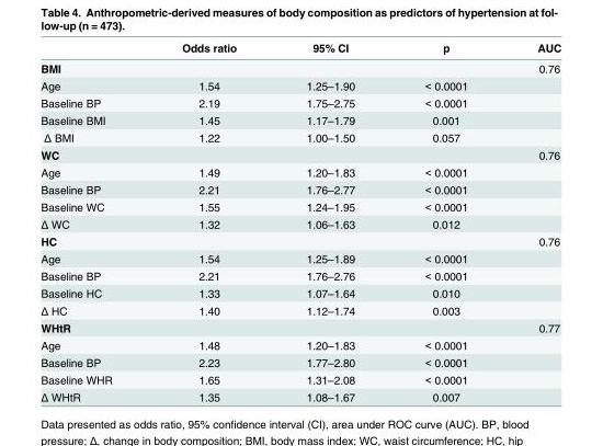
<table><thead><tr><td></td><td>Odds ratio</td><td>95% CI</td><td>p</td><td>AUC</td></tr></thead><tbody><tr><td>BMI</td><td></td><td></td><td></td><td>0.76</td></tr><tr><td>Age</td><td>1.54</td><td>1.25–1.90</td><td>&lt; 0.0001</td><td></td></tr><tr><td>Baseline BP</td><td>2.19</td><td>1.75–2.75</td><td>&lt; 0.0001</td><td></td></tr><tr><td>Baseline BMI</td><td>1.45</td><td>1.17–1.79</td><td>0.001</td><td></td></tr><tr><td>Δ BMI</td><td>1.22</td><td>1.00–1.50</td><td>0.057</td><td></td></tr><tr><td>WC</td><td></td><td></td><td></td><td>0.76</td></tr><tr><td>Age</td><td>1.49</td><td>1.20–1.83</td><td>&lt; 0.0001</td><td></td></tr><tr><td>Baseline BP</td><td>2.21</td><td>1.76–2.77</td><td>&lt; 0.0001</td><td></td></tr><tr><td>Baseline WC</td><td>1.55</td><td>1.24–1.95</td><td>&lt; 0.0001</td><td></td></tr><tr><td>Δ WC</td><td>1.32</td><td>1.06–1.63</td><td>0.012</td><td></td></tr><tr><td>HC</td><td></td><td></td><td></td><td>0.76</td></tr><tr><td>Age</td><td>1.54</td><td>1.25–1.89</td><td>&lt; 0.0001</td><td></td></tr><tr><td>Baseline BP</td><td>2.21</td><td>1.76–2.76</td><td>&lt; 0.0001</td><td></td></tr><tr><td>Baseline HC</td><td>1.33</td><td>1.07–1.64</td><td>0.010</td><td></td></tr><tr><td>Δ HC</td><td>1.40</td><td>1.12–1.74</td><td>0.003</td><td></td></tr><tr><td>WHtR</td><td></td><td></td><td></td><td>0.77</td></tr><tr><td>Age</td><td>1.48</td><td>1.20–1.83</td><td>&lt; 0.0001</td><td></td></tr><tr><td>Baseline BP</td><td>2.23</td><td>1.77–2.80</td><td>&lt; 0.0001</td><td></td></tr><tr><td>Baseline WHR</td><td>1.65</td><td>1.31–2.08</td><td>&lt; 0.0001</td><td></td></tr><tr><td>Δ WHtR</td><td>1.35</td><td>1.08–1.67</td><td>0.007</td><td></td></tr></tbody></table>